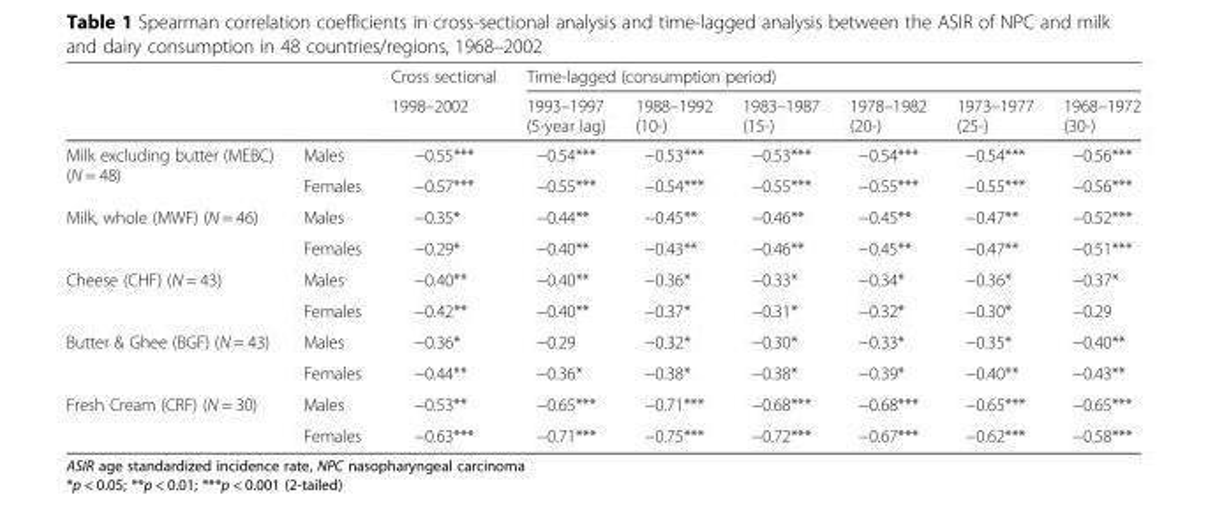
<table><thead><tr><td rowspan="2"></td><td rowspan="2"></td><td rowspan="2">Cross sectional 1998–2002</td><td colspan="6">Time-lagged (consumption period)</td></tr><tr><td>1993–1997 (5-year lag)</td><td>1988–1992 (10-)</td><td>1983–1987 (15-)</td><td>1978–1982 (20-)</td><td>1973–1977 (25-)</td><td>1968–1972 (30-)</td></tr></thead><tbody><tr><td rowspan="2">Milk excluding butter (MEBC) (N = 48)</td><td>Males</td><td>−0.55***</td><td>−0.54***</td><td>−0.53***</td><td>−0.53***</td><td>−0.54***</td><td>−0.54***</td><td>−0.56***</td></tr><tr><td>Females</td><td>−0.57***</td><td>−0.55***</td><td>−0.54***</td><td>−0.55***</td><td>−0.55***</td><td>−0.55***</td><td>−0.56***</td></tr><tr><td rowspan="2">Milk, whole (MWF) (N = 46)</td><td>Males</td><td>−0.35*</td><td>−0.44**</td><td>−0.45**</td><td>−0.46**</td><td>−0.45**</td><td>−0.47**</td><td>−0.52***</td></tr><tr><td>Females</td><td>−0.29*</td><td>−0.40**</td><td>−0.43**</td><td>−0.46**</td><td>−0.45**</td><td>−0.47**</td><td>−0.51***</td></tr><tr><td rowspan="2">Cheese (CHF) (N = 43)</td><td>Males</td><td>−0.40**</td><td>−0.40**</td><td>−0.36*</td><td>−0.33*</td><td>−0.34*</td><td>−0.36*</td><td>−0.37*</td></tr><tr><td>Females</td><td>−0.42**</td><td>−0.40**</td><td>−0.37*</td><td>−0.31*</td><td>−0.32*</td><td>−0.30*</td><td>−0.29</td></tr><tr><td rowspan="2">Butter &amp; Ghee (BGF) (N = 43)</td><td>Males</td><td>−0.36*</td><td>−0.29</td><td>−0.32*</td><td>−0.30*</td><td>−0.33*</td><td>−0.35*</td><td>−0.40**</td></tr><tr><td>Females</td><td>−0.44**</td><td>−0.36*</td><td>−0.38*</td><td>−0.38*</td><td>−0.39*</td><td>−0.40**</td><td>−0.43**</td></tr><tr><td rowspan="2">Fresh Cream (CRF) (N = 30)</td><td>Males</td><td>−0.53**</td><td>−0.65***</td><td>−0.71***</td><td>−0.68***</td><td>−0.68***</td><td>−0.65***</td><td>−0.65***</td></tr><tr><td>Females</td><td>−0.63***</td><td>−0.71***</td><td>−0.75***</td><td>−0.72***</td><td>−0.67***</td><td>−0.62***</td><td>−0.58***</td></tr></tbody></table>